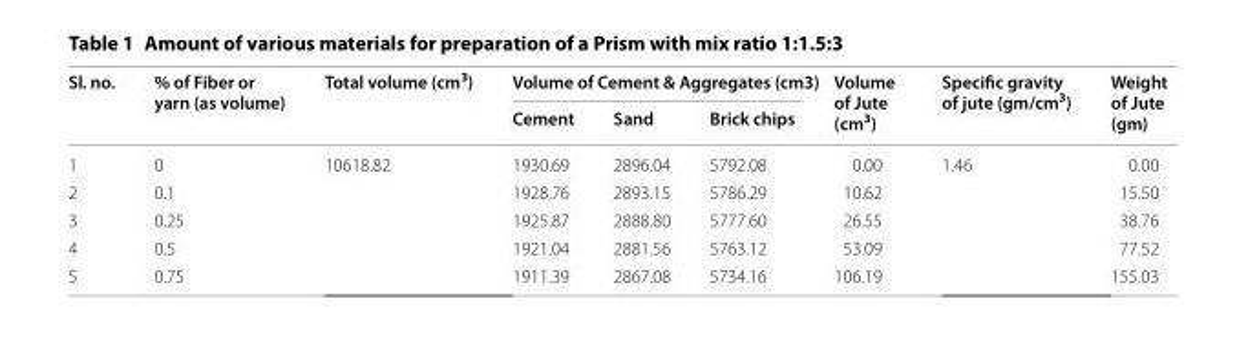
<table><thead><tr><td rowspan="2">Sl. no.</td><td rowspan="2">% of Fiber or yarn (as volume)</td><td rowspan="2">Total volume (cm<sup>3</sup>)</td><td colspan="3">Volume of Cement &amp; Aggregates (cm3)</td><td rowspan="2">Volume of Jute (cm<sup>3</sup>)</td><td rowspan="2">Specific gravity of jute (gm/cm<sup>3</sup>)</td><td rowspan="2">Weight of Jute (gm)</td></tr><tr><td>Cement</td><td>Sand</td><td>Brick chips</td></tr></thead><tbody><tr><td>1</td><td>0</td><td rowspan="5">10618.82</td><td>1930.69</td><td>2896.04</td><td>5792.08</td><td>0.00</td><td rowspan="5">1.46</td><td>0.00</td></tr><tr><td>2</td><td>0.1</td><td>1928.76</td><td>2893.15</td><td>5786.29</td><td>10.62</td><td>15.50</td></tr><tr><td>3</td><td>0.25</td><td>1925.87</td><td>2888.80</td><td>5777.60</td><td>26.55</td><td>38.76</td></tr><tr><td>4</td><td>0.5</td><td>1921.04</td><td>2881.56</td><td>5763.12</td><td>53.09</td><td>77.52</td></tr><tr><td>5</td><td>0.75</td><td>1911.39</td><td>2867.08</td><td>5734.16</td><td>106.19</td><td>155.03</td></tr></tbody></table>